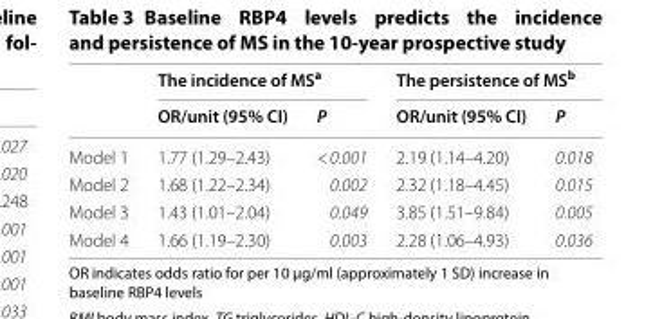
<table><thead><tr><td rowspan="2"></td><td colspan="2">The incidence of MS<sup>a</sup></td><td colspan="2">The persistence of MS<sup>b</sup></td></tr><tr><td>OR/unit (95% CI)</td><td>P</td><td>OR/unit (95% CI)</td><td>P</td></tr></thead><tbody><tr><td>Model 1</td><td>1.77 (1.29–2.43)</td><td>&lt; 0.001</td><td>2.19 (1.14–4.20)</td><td>0.018</td></tr><tr><td>Model 2</td><td>1.68 (1.22–2.34)</td><td>0.002</td><td>2.32 (1.18–4.45)</td><td>0.015</td></tr><tr><td>Model 3</td><td>1.43 (1.01–2.04)</td><td>0.049</td><td>3.85 (1.51–9.84)</td><td>0.005</td></tr><tr><td>Model 4</td><td>1.66 (1.19–2.30)</td><td>0.003</td><td>2.28 (1.06–4.93)</td><td>0.036</td></tr></tbody></table>